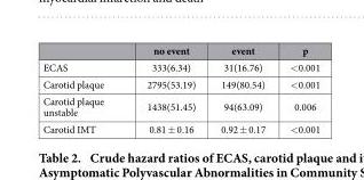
<table><thead><tr><td></td><td>no event</td><td>event</td><td>p</td></tr></thead><tbody><tr><td>ECAS</td><td>333(6.34)</td><td>31(16.76)</td><td>&lt; 0.001</td></tr><tr><td>Carotid plaque</td><td>2795(53.19)</td><td>149(80.54)</td><td>&lt; 0.001</td></tr><tr><td>Carotid plaque unstable</td><td>1438(51.45)</td><td>94(63.09)</td><td>0.006</td></tr><tr><td>Carotid IMT</td><td>0.81 ± 0.16</td><td>0.92 ± 0.17</td><td>&lt; 0.001</td></tr></tbody></table>